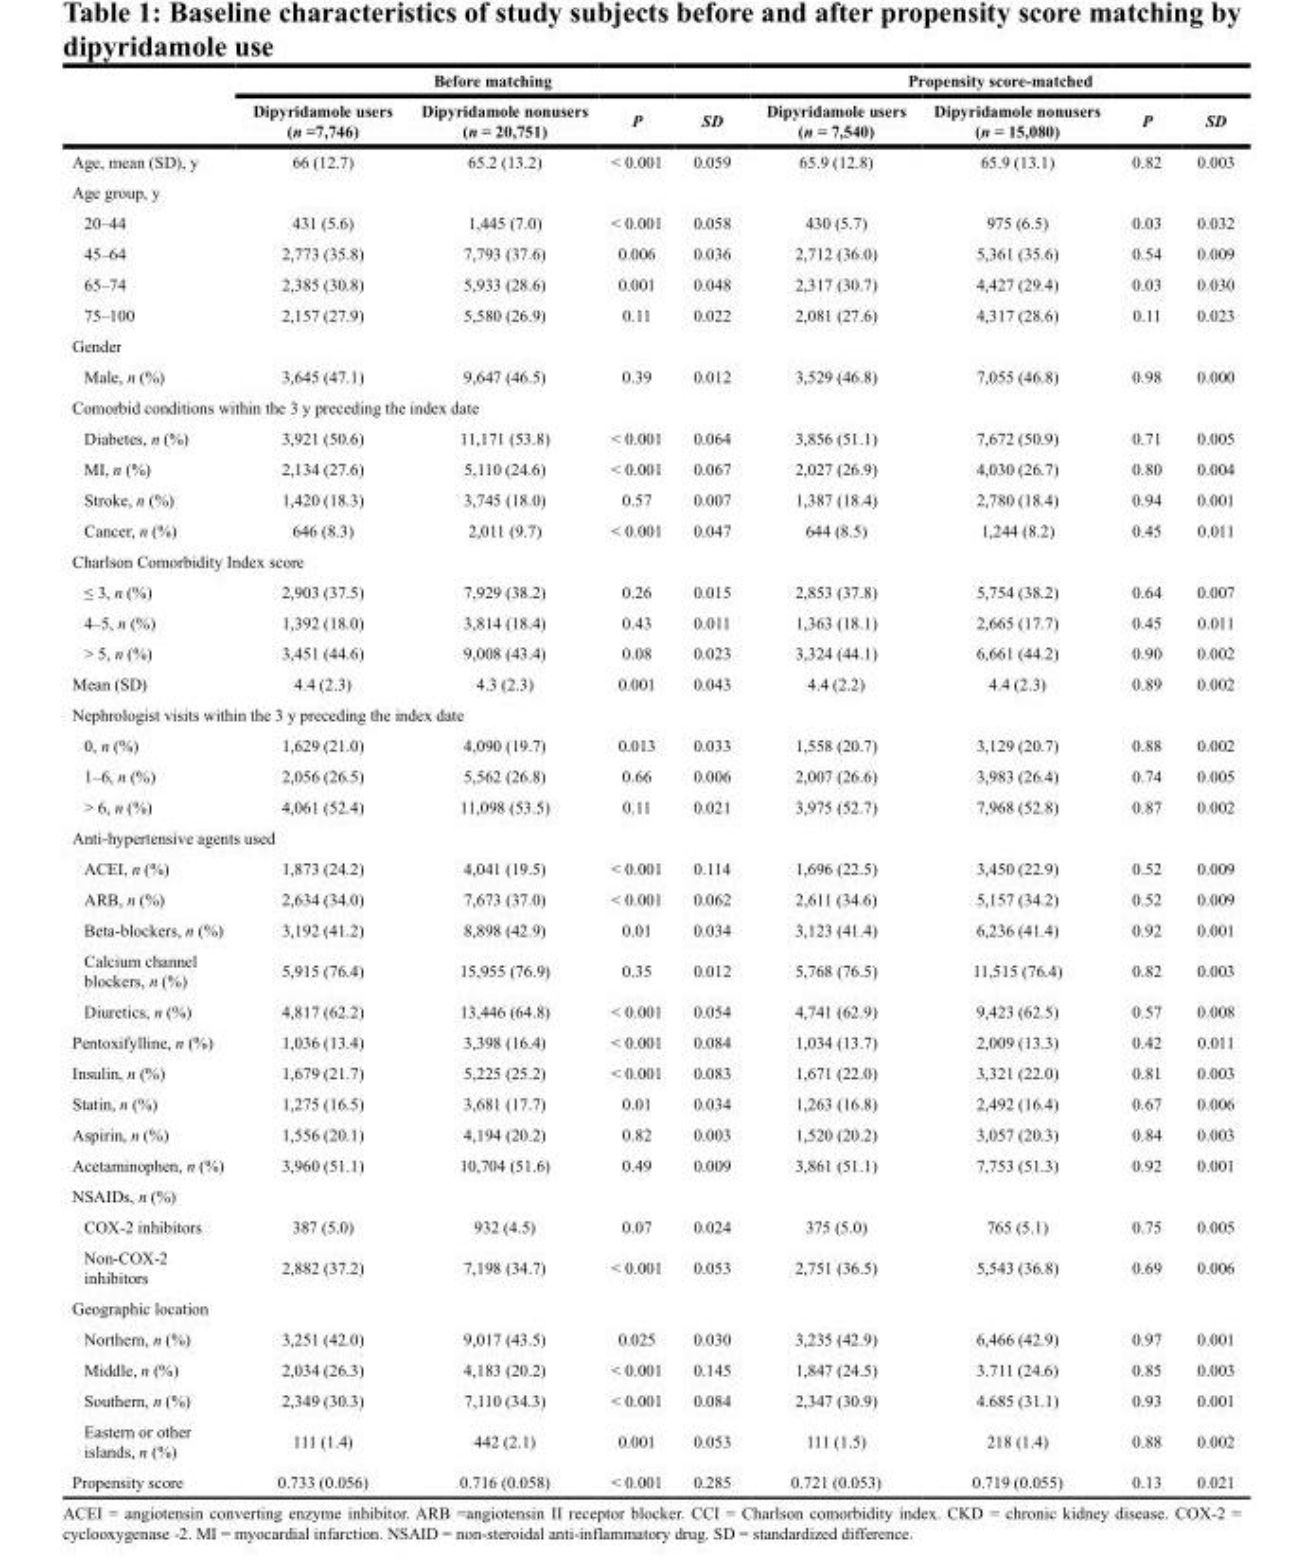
<table><thead><tr><td rowspan="2"></td><td colspan="4">Before matching</td><td colspan="4">Propensity score-matched</td></tr><tr><td>Dipyridamole users (n =7,746)</td><td>Dipyridamole nonusers (n = 20,751)</td><td>P</td><td>SD</td><td>Dipyridamole users (n = 7,540)</td><td>Dipyridamole nonusers (n = 15,080)</td><td>P</td><td>SD</td></tr></thead><tbody><tr><td>Age, mean (SD), y</td><td>66 (12.7)</td><td>65.2 (13.2)</td><td>&lt; 0.001</td><td>0.059</td><td>65.9 (12.8)</td><td>65.9 (13.1)</td><td>0.82</td><td>0.003</td></tr><tr><td colspan="9">Age group, y</td></tr><tr><td>20–44</td><td>431 (5.6)</td><td>1,445 (7.0)</td><td>&lt; 0.001</td><td>0.058</td><td>430 (5.7)</td><td>975 (6.5)</td><td>0.03</td><td>0.032</td></tr><tr><td>45–64</td><td>2,773 (35.8)</td><td>7,793 (37.6)</td><td>0.006</td><td>0.036</td><td>2,712 (36.0)</td><td>5,361 (35.6)</td><td>0.54</td><td>0.009</td></tr><tr><td>65–74</td><td>2,385 (30.8)</td><td>5,933 (28.6)</td><td>0.001</td><td>0.048</td><td>2,317 (30.7)</td><td>4,427 (29.4)</td><td>0.03</td><td>0.030</td></tr><tr><td>75–100</td><td>2,157 (27.9)</td><td>5,580 (26.9)</td><td>0.11</td><td>0.022</td><td>2,081 (27.6)</td><td>4,317 (28.6)</td><td>0.11</td><td>0.023</td></tr><tr><td colspan="9">Gender</td></tr><tr><td>Male, n (%)</td><td>3,645 (47.1)</td><td>9,647 (46.5)</td><td>0.39</td><td>0.012</td><td>3,529 (46.8)</td><td>7,055 (46.8)</td><td>0.98</td><td>0.000</td></tr><tr><td colspan="9">Comorbid conditions within the 3 y preceding the index date</td></tr><tr><td>Diabetes, n (%)</td><td>3,921 (50.6)</td><td>11,171 (53.8)</td><td>&lt; 0.001</td><td>0.064</td><td>3,856 (51.1)</td><td>7,672 (50.9)</td><td>0.71</td><td>0.005</td></tr><tr><td>MI, n (%)</td><td>2,134 (27.6)</td><td>5,110 (24.6)</td><td>&lt; 0.001</td><td>0.067</td><td>2,027 (26.9)</td><td>4,030 (26.7)</td><td>0.80</td><td>0.004</td></tr><tr><td>Stroke, n (%)</td><td>1,420 (18.3)</td><td>3,745 (18.0)</td><td>0.57</td><td>0.007</td><td>1,387 (18.4)</td><td>2,780 (18.4)</td><td>0.94</td><td>0.001</td></tr><tr><td>Cancer, n (%)</td><td>646 (8.3)</td><td>2,011 (9.7)</td><td>&lt; 0.001</td><td>0.047</td><td>644 (8.5)</td><td>1,244 (8.2)</td><td>0.45</td><td>0.011</td></tr><tr><td colspan="9">Charlson Comorbidity Index score</td></tr><tr><td>≤ 3, n (%)</td><td>2,903 (37.5)</td><td>7,929 (38.2)</td><td>0.26</td><td>0.015</td><td>2,853 (37.8)</td><td>5,754 (38.2)</td><td>0.64</td><td>0.007</td></tr><tr><td>4–5, n (%)</td><td>1,392 (18.0)</td><td>3,814 (18.4)</td><td>0.43</td><td>0.011</td><td>1,363 (18.1)</td><td>2,665 (17.7)</td><td>0.45</td><td>0.011</td></tr><tr><td>&gt; 5, n (%)</td><td>3,451 (44.6)</td><td>9,008 (43.4)</td><td>0.08</td><td>0.023</td><td>3,324 (44.1)</td><td>6,661 (44.2)</td><td>0.90</td><td>0.002</td></tr><tr><td>Mean (SD)</td><td>4.4 (2.3)</td><td>4.3 (2.3)</td><td>0.001</td><td>0.043</td><td>4.4 (2.2)</td><td>4.4 (2.3)</td><td>0.89</td><td>0.002</td></tr><tr><td colspan="9">Nephrologist visits within the 3 y preceding the index date</td></tr><tr><td>0, n (%)</td><td>1,629 (21.0)</td><td>4,090 (19.7)</td><td>0.013</td><td>0.033</td><td>1,558 (20.7)</td><td>3,129 (20.7)</td><td>0.88</td><td>0.002</td></tr><tr><td>1–6, n (%)</td><td>2,056 (26.5)</td><td>5,562 (26.8)</td><td>0.66</td><td>0.006</td><td>2,007 (26.6)</td><td>3,983 (26.4)</td><td>0.74</td><td>0.005</td></tr><tr><td>&gt; 6, n (%)</td><td>4,061 (52.4)</td><td>11,098 (53.5)</td><td>0.11</td><td>0.021</td><td>3,975 (52.7)</td><td>7,968 (52.8)</td><td>0.87</td><td>0.002</td></tr><tr><td colspan="9">Anti-hypertensive agents used</td></tr><tr><td>ACEI, n (%)</td><td>1,873 (24.2)</td><td>4,041 (19.5)</td><td>&lt; 0.001</td><td>0.114</td><td>1,696 (22.5)</td><td>3,450 (22.9)</td><td>0.52</td><td>0.009</td></tr><tr><td>ARB, n (%)</td><td>2,634 (34.0)</td><td>7,673 (37.0)</td><td>&lt; 0.001</td><td>0.062</td><td>2,611 (34.6)</td><td>5,157 (34.2)</td><td>0.52</td><td>0.009</td></tr><tr><td>Beta-blockers, n (%)</td><td>3,192 (41.2)</td><td>8,898 (42.9)</td><td>0.01</td><td>0.034</td><td>3,123 (41.4)</td><td>6,236 (41.4)</td><td>0.92</td><td>0.001</td></tr><tr><td>Calcium channel blockers, n (%)</td><td>5,915 (76.4)</td><td>15,955 (76.9)</td><td>0.35</td><td>0.012</td><td>5,768 (76.5)</td><td>11,515 (76.4)</td><td>0.82</td><td>0.003</td></tr><tr><td>Diuretics, n (%)</td><td>4,817 (62.2)</td><td>13,446 (64.8)</td><td>&lt; 0.001</td><td>0.054</td><td>4,741 (62.9)</td><td>9,423 (62.5)</td><td>0.57</td><td>0.008</td></tr><tr><td>Pentoxifylline, n (%)</td><td>1,036 (13.4)</td><td>3,398 (16.4)</td><td>&lt; 0.001</td><td>0.084</td><td>1,034 (13.7)</td><td>2,009 (13.3)</td><td>0.42</td><td>0.011</td></tr><tr><td>Insulin, n (%)</td><td>1,679 (21.7)</td><td>5,225 (25.2)</td><td>&lt; 0.001</td><td>0.083</td><td>1,671 (22.0)</td><td>3,321 (22.0)</td><td>0.81</td><td>0.003</td></tr><tr><td>Statin, n (%)</td><td>1,275 (16.5)</td><td>3,681 (17.7)</td><td>0.01</td><td>0.034</td><td>1,263 (16.8)</td><td>2,492 (16.4)</td><td>0.67</td><td>0.006</td></tr><tr><td>Aspirin, n (%)</td><td>1,556 (20.1)</td><td>4,194 (20.2)</td><td>0.82</td><td>0.003</td><td>1,520 (20.2)</td><td>3,057 (20.3)</td><td>0.84</td><td>0.003</td></tr><tr><td>Acetaminophen, n (%)</td><td>3,960 (51.1)</td><td>10,704 (51.6)</td><td>0.49</td><td>0.009</td><td>3,861 (51.1)</td><td>7,753 (51.3)</td><td>0.92</td><td>0.001</td></tr><tr><td colspan="9">NSAIDs, n (%)</td></tr><tr><td>COX-2 inhibitors</td><td>387 (5.0)</td><td>932 (4.5)</td><td>0.07</td><td>0.024</td><td>375 (5.0)</td><td>765 (5.1)</td><td>0.75</td><td>0.005</td></tr><tr><td>Non-COX-2 inhibitors</td><td>2,882 (37.2)</td><td>7,198 (34.7)</td><td>&lt; 0.001</td><td>0.053</td><td>2,751 (36.5)</td><td>5,543 (36.8)</td><td>0.69</td><td>0.006</td></tr><tr><td colspan="9">Geographic location</td></tr><tr><td>Northern, n (%)</td><td>3,251 (42.0)</td><td>9,017 (43.5)</td><td>0.025</td><td>0.030</td><td>3,235 (42.9)</td><td>6,466 (42.9)</td><td>0.97</td><td>0.001</td></tr><tr><td>Middle, n (%)</td><td>2,034 (26.3)</td><td>4,183 (20.2)</td><td>&lt; 0.001</td><td>0.145</td><td>1,847 (24.5)</td><td>3.711 (24.6)</td><td>0.85</td><td>0.003</td></tr><tr><td>Southern, n (%)</td><td>2,349 (30.3)</td><td>7,110 (34.3)</td><td>&lt; 0.001</td><td>0.084</td><td>2,347 (30.9)</td><td>4.685 (31.1)</td><td>0.93</td><td>0.001</td></tr><tr><td>Eastern or other islands, n (%)</td><td>111 (1.4)</td><td>442 (2.1)</td><td>0.001</td><td>0.053</td><td>111 (1.5)</td><td>218 (1.4)</td><td>0.88</td><td>0.002</td></tr><tr><td>Propensity score</td><td>0.733 (0.056)</td><td>0.716 (0.058)</td><td>&lt; 0.001</td><td>0.285</td><td>0.721 (0.053)</td><td>0.719 (0.055)</td><td>0.13</td><td>0.021</td></tr></tbody></table>